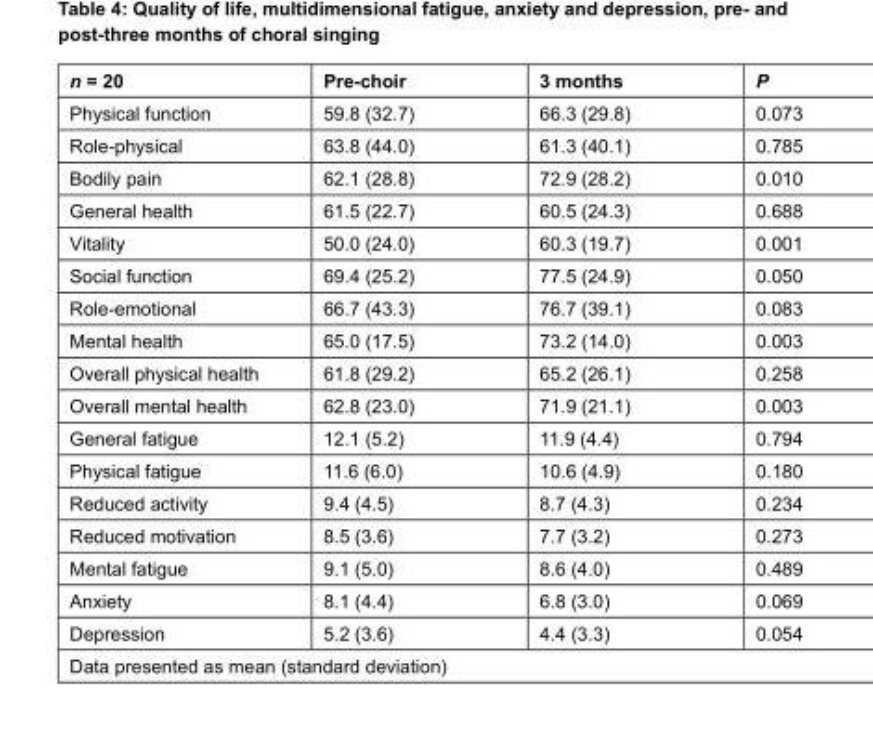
<table><thead><tr><td>n = 20</td><td>Pre-choir</td><td>3 months</td><td>P</td></tr></thead><tbody><tr><td>Physical function</td><td>59.8 (32.7)</td><td>66.3 (29.8)</td><td>0.073</td></tr><tr><td>Role-physical</td><td>63.8 (44.0)</td><td>61.3 (40.1)</td><td>0.785</td></tr><tr><td>Bodily pain</td><td>62.1 (28.8)</td><td>72.9 (28.2)</td><td>0.010</td></tr><tr><td>General health</td><td>61.5 (22.7)</td><td>60.5 (24.3)</td><td>0.688</td></tr><tr><td>Vitality</td><td>50.0 (24.0)</td><td>60.3 (19.7)</td><td>0.001</td></tr><tr><td>Social function</td><td>69.4 (25.2)</td><td>77.5 (24.9)</td><td>0.050</td></tr><tr><td>Role-emotional</td><td>66.7 (43.3)</td><td>76.7 (39.1)</td><td>0.083</td></tr><tr><td>Mental health</td><td>65.0 (17.5)</td><td>73.2 (14.0)</td><td>0.003</td></tr><tr><td>Overall physical health</td><td>61.8 (29.2)</td><td>65.2 (26.1)</td><td>0.258</td></tr><tr><td>Overall mental health</td><td>62.8 (23.0)</td><td>71.9 (21.1)</td><td>0.003</td></tr><tr><td>General fatigue</td><td>12.1 (5.2)</td><td>11.9 (4.4)</td><td>0.794</td></tr><tr><td>Physical fatigue</td><td>11.6 (6.0)</td><td>10.6 (4.9)</td><td>0.180</td></tr><tr><td>Reduced activity</td><td>9.4 (4.5)</td><td>8.7 (4.3)</td><td>0.234</td></tr><tr><td>Reduced motivation</td><td>8.5 (3.6)</td><td>7.7 (3.2)</td><td>0.273</td></tr><tr><td>Mental fatigue</td><td>9.1 (5.0)</td><td>8.6 (4.0)</td><td>0.489</td></tr><tr><td>Anxiety</td><td>8.1 (4.4)</td><td>6.8 (3.0)</td><td>0.069</td></tr><tr><td>Depression</td><td>5.2 (3.6)</td><td>4.4 (3.3)</td><td>0.054</td></tr><tr><td colspan="4">Data presented as mean (standard deviation)</td></tr></tbody></table>